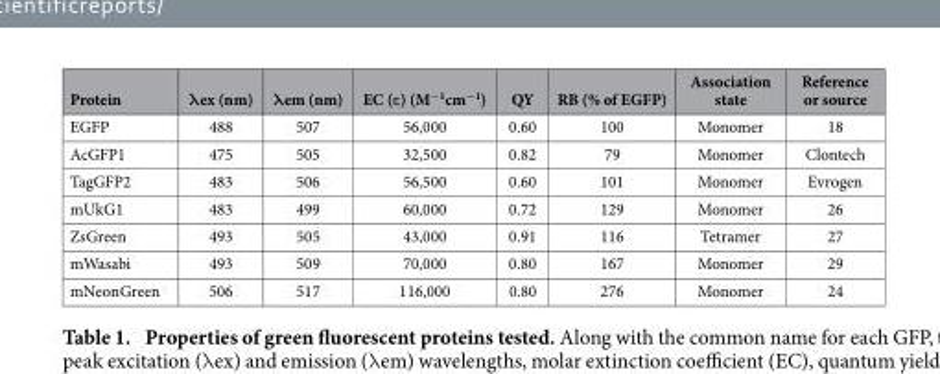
<table><thead><tr><td>Protein</td><td>λex (nm)</td><td>λem (nm)</td><td>EC (ε) (M<sup>−1</sup>cm<sup>−1</sup>)</td><td>QY</td><td>RB (% of EGFP)</td><td>Association state</td><td>Reference or source</td></tr></thead><tbody><tr><td>EGFP</td><td>488</td><td>507</td><td>56,000</td><td>0.60</td><td>100</td><td>Monomer</td><td>18</td></tr><tr><td>AcGFP1</td><td>475</td><td>505</td><td>32,500</td><td>0.82</td><td>79</td><td>Monomer</td><td>Clontech</td></tr><tr><td>TagGFP2</td><td>483</td><td>506</td><td>56,500</td><td>0.60</td><td>101</td><td>Monomer</td><td>Evrogen</td></tr><tr><td>mUkG1</td><td>483</td><td>499</td><td>60,000</td><td>0.72</td><td>129</td><td>Monomer</td><td>26</td></tr><tr><td>ZsGreen</td><td>493</td><td>505</td><td>43,000</td><td>0.91</td><td>116</td><td>Tetramer</td><td>27</td></tr><tr><td>mWasabi</td><td>493</td><td>509</td><td>70,000</td><td>0.80</td><td>167</td><td>Monomer</td><td>29</td></tr><tr><td>mNeonGreen</td><td>506</td><td>517</td><td>116,000</td><td>0.80</td><td>276</td><td>Monomer</td><td>24</td></tr></tbody></table>